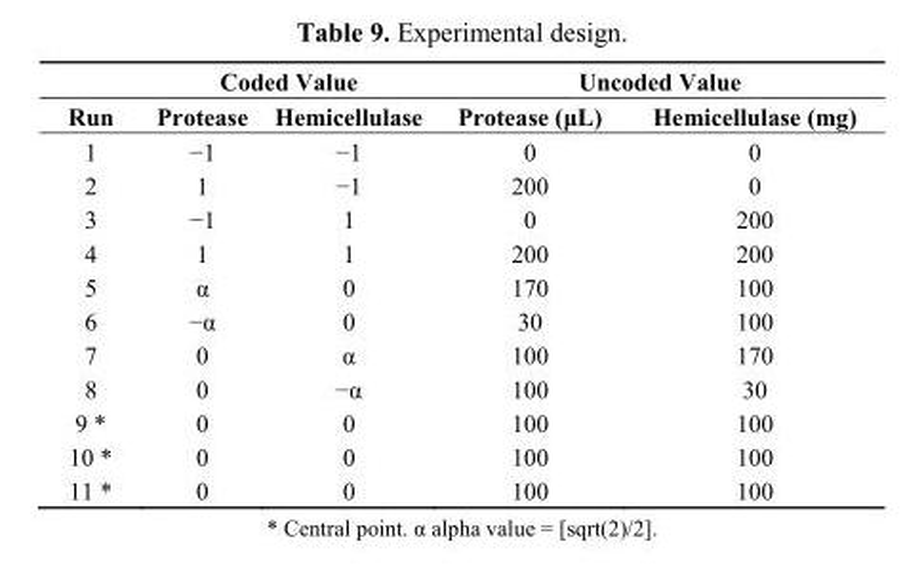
<table><thead><tr><td rowspan="2">Run</td><td colspan="2">Coded Value</td><td colspan="2">Uncoded Value</td></tr><tr><td>Protease</td><td>Hemicellulase</td><td>Protease (μL)</td><td>Hemicellulase (mg)</td></tr></thead><tbody><tr><td>1</td><td>−1</td><td>−1</td><td>0</td><td>0</td></tr><tr><td>2</td><td>1</td><td>−1</td><td>200</td><td>0</td></tr><tr><td>3</td><td>−1</td><td>1</td><td>0</td><td>200</td></tr><tr><td>4</td><td>1</td><td>1</td><td>200</td><td>200</td></tr><tr><td>5</td><td>α</td><td>0</td><td>170</td><td>100</td></tr><tr><td>6</td><td>−α</td><td>0</td><td>30</td><td>100</td></tr><tr><td>7</td><td>0</td><td>α</td><td>100</td><td>170</td></tr><tr><td>8</td><td>0</td><td>−α</td><td>100</td><td>30</td></tr><tr><td>9 *</td><td>0</td><td>0</td><td>100</td><td>100</td></tr><tr><td>10 *</td><td>0</td><td>0</td><td>100</td><td>100</td></tr><tr><td>11 *</td><td>0</td><td>0</td><td>100</td><td>100</td></tr></tbody></table>